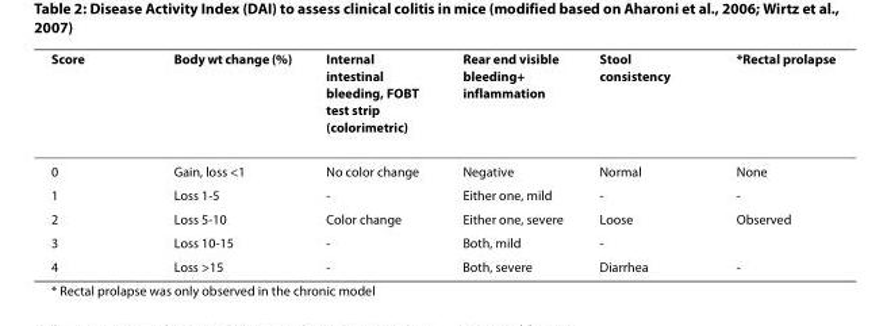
<table><thead><tr><td>Score</td><td>Body wt change (%)</td><td>Internal intestinal bleeding, FOBT test strip (colorimetric)</td><td>Rear end visible bleeding+ inflammation</td><td>Stool consistency</td><td>*Rectal prolapse</td></tr></thead><tbody><tr><td>0</td><td>Gain, loss &lt;1</td><td>No color change</td><td>Negative</td><td>Normal</td><td>None</td></tr><tr><td>1</td><td>Loss 1-5</td><td>-</td><td>Either one, mild</td><td>-</td><td>-</td></tr><tr><td>2</td><td>Loss 5-10</td><td>Color change</td><td>Either one, severe</td><td>Loose</td><td>Observed</td></tr><tr><td>3</td><td>Loss 10-15</td><td>-</td><td>Both, mild</td><td>-</td><td></td></tr><tr><td>4</td><td>Loss &gt;15</td><td>-</td><td>Both, severe</td><td>Diarrhea</td><td>-</td></tr></tbody></table>